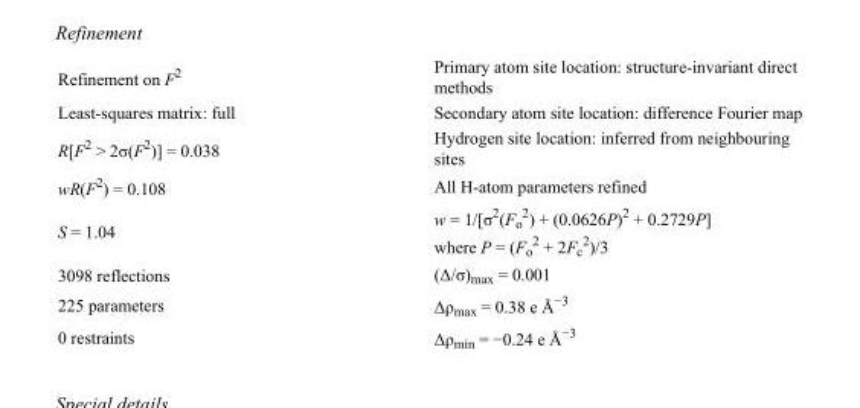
<table><tbody><tr><td>Refinement on F<sup>2</sup></td><td>Primary atom site location: structure-invariant direct methods</td></tr><tr><td>Least-squares matrix: full</td><td>Secondary atom site location: difference Fourier map</td></tr><tr><td>R[F<sup>2</sup> &gt; 2σ(F<sup>2</sup>)] = 0.038</td><td>Hydrogen site location: inferred from neighbouring sites</td></tr><tr><td>wR(F<sup>2</sup>) = 0.108</td><td>All H-atom parameters refined</td></tr><tr><td>S = 1.04</td><td>w = 1/[σ<sup>2</sup>(F<sub>o</sub> <sup>2</sup>) + (0.0626P)<sup>2</sup> + 0.2729P] where P = (F<sub>o</sub> <sup>2</sup> + 2F<sub>c</sub> <sup>2</sup>)/3</td></tr><tr><td>3098 reflections</td><td>(Δ/σ)<sub>max</sub> = 0.001</td></tr><tr><td>225 parameters</td><td>Δρ<sub>max</sub> = 0.38 e Å<sup>−3</sup></td></tr><tr><td>0 restraints</td><td>Δρ<sub>min</sub> = −0.24 e Å<sup>−3</sup></td></tr></tbody></table>